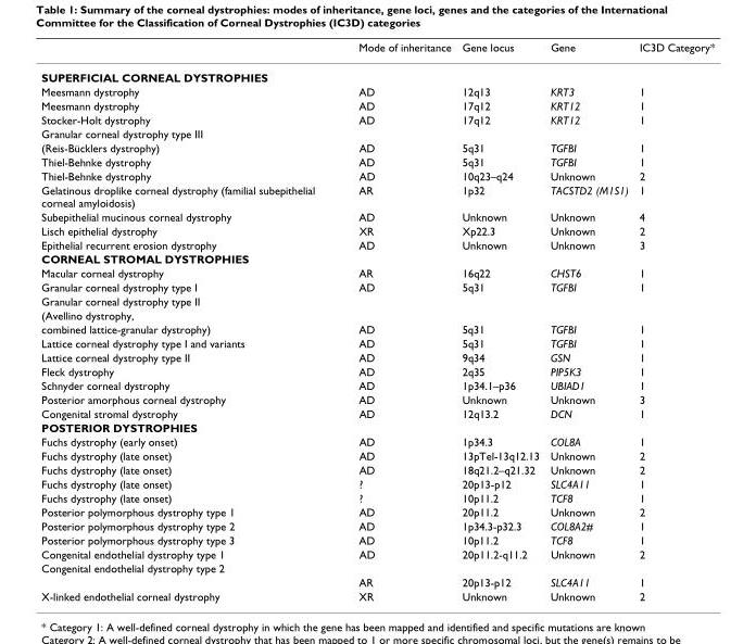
<table><thead><tr><td></td><td>Mode of inheritance</td><td>Gene locus</td><td>Gene</td><td>IC3D Category*</td></tr></thead><tbody><tr><td colspan="5">SUPERFICIAL CORNEAL DYSTROPHIES</td></tr><tr><td>Meesmann dystrophy</td><td>AD</td><td>12q13</td><td>KRT3</td><td>1</td></tr><tr><td>Meesmann dystrophy</td><td>AD</td><td>17q12</td><td>KRT12</td><td>1</td></tr><tr><td>Stocker-Holt dystrophy</td><td>AD</td><td>17q12</td><td>KRT12</td><td>1</td></tr><tr><td colspan="5">Granular corneal dystrophy type III</td></tr><tr><td>(Reis-Bücklers dystrophy)</td><td>AD</td><td>5q31</td><td>TGFBI</td><td>1</td></tr><tr><td>Thiel-Behnke dystrophy</td><td>AD</td><td>5q31</td><td>TGFBI</td><td>1</td></tr><tr><td>Thiel-Behnke dystrophy</td><td>AD</td><td>10q23–q24</td><td>Unknown</td><td>2</td></tr><tr><td>Gelatinous droplike corneal dystrophy (familial subepithelial corneal amyloidosis)</td><td>AR</td><td>1p32</td><td>TACSTD2 (M1S1)</td><td>1</td></tr><tr><td>Subepithelial mucinous corneal dystrophy</td><td>AD</td><td>Unknown</td><td>Unknown</td><td>4</td></tr><tr><td>Lisch epithelial dystrophy</td><td>XR</td><td>Xp22.3</td><td>Unknown</td><td>2</td></tr><tr><td>Epithelial recurrent erosion dystrophy</td><td>AD</td><td>Unknown</td><td>Unknown</td><td>3</td></tr><tr><td colspan="5">CORNEAL STROMAL DYSTROPHIES</td></tr><tr><td>Macular corneal dystrophy</td><td>AR</td><td>16q22</td><td>CHST6</td><td>1</td></tr><tr><td>Granular corneal dystrophy type I</td><td>AD</td><td>5q31</td><td>TGFBI</td><td>1</td></tr><tr><td colspan="5">Granular corneal dystrophy type II</td></tr><tr><td colspan="5">(Avellino dystrophy,</td></tr><tr><td>combined lattice-granular dystrophy)</td><td>AD</td><td>5q31</td><td>TGFBI</td><td>1</td></tr><tr><td>Lattice corneal dystrophy type I and variants</td><td>AD</td><td>5q31</td><td>TGFBI</td><td>1</td></tr><tr><td>Lattice corneal dystrophy type II</td><td>AD</td><td>9q34</td><td>GSN</td><td>1</td></tr><tr><td>Fleck dystrophy</td><td>AD</td><td>2q35</td><td>PIP5K3</td><td>1</td></tr><tr><td>Schnyder corneal dystrophy</td><td>AD</td><td>1p34.1–p36</td><td>UBIAD1</td><td>1</td></tr><tr><td>Posterior amorphous corneal dystrophy</td><td>AD</td><td>Unknown</td><td>Unknown</td><td>3</td></tr><tr><td>Congenital stromal dystrophy</td><td>AD</td><td>12q13.2</td><td>DCN</td><td>1</td></tr><tr><td colspan="5">POSTERIOR DYSTROPHIES</td></tr><tr><td>Fuchs dystrophy (early onset)</td><td>AD</td><td>1p34.3</td><td>COL8A</td><td>1</td></tr><tr><td>Fuchs dystrophy (late onset)</td><td>AD</td><td>13pTel-13q12.13</td><td>Unknown</td><td>2</td></tr><tr><td>Fuchs dystrophy (late onset)</td><td>AD</td><td>18q21.2–q21.32</td><td>Unknown</td><td>2</td></tr><tr><td>Fuchs dystrophy (late onset)</td><td>?</td><td>20p13-p12</td><td>SLC4A11</td><td>1</td></tr><tr><td>Fuchs dystrophy (late onset)</td><td>?</td><td>10p11.2</td><td>TCF8</td><td>1</td></tr><tr><td>Posterior polymorphous dystrophy type 1</td><td>AD</td><td>20p11.2</td><td>Unknown</td><td>2</td></tr><tr><td>Posterior polymorphous dystrophy type 2</td><td>AD</td><td>1p34.3-p32.3</td><td>COL8A2#</td><td>1</td></tr><tr><td>Posterior polymorphous dystrophy type 3</td><td>AD</td><td>10p11.2</td><td>TCF8</td><td>1</td></tr><tr><td>Congenital endothelial dystrophy type 1</td><td>AD</td><td>20p11.2-q11.2</td><td>Unknown</td><td>2</td></tr><tr><td colspan="5">Congenital endothelial dystrophy type 2</td></tr><tr><td></td><td>AR</td><td>20p13-p12</td><td>SLC4A11</td><td>1</td></tr><tr><td>X-linked endothelial corneal dystrophy</td><td>XR</td><td>Unknown</td><td>Unknown</td><td>2</td></tr></tbody></table>